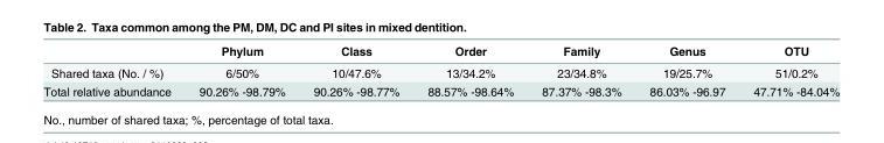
<table><thead><tr><td></td><td>Phylum</td><td>Class</td><td>Order</td><td>Family</td><td>Genus</td><td>OTU</td></tr></thead><tbody><tr><td>Shared taxa (No. / %)</td><td>6/50%</td><td>10/47.6%</td><td>13/34.2%</td><td>23/34.8%</td><td>19/25.7%</td><td>51/0.2%</td></tr><tr><td>Total relative abundance</td><td>90.26% -98.79%</td><td>90.26% -98.77%</td><td>88.57% -98.64%</td><td>87.37% -98.3%</td><td>86.03% -96.97</td><td>47.71% -84.04%</td></tr></tbody></table>